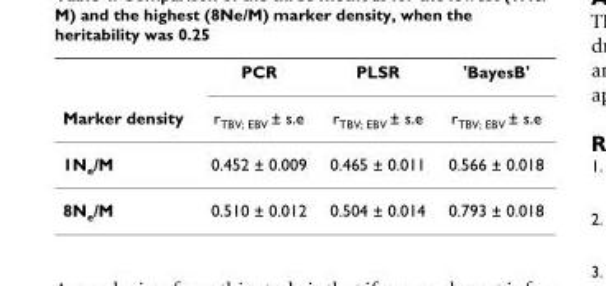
<table><thead><tr><td rowspan="2">Marker density</td><td rowspan="2">PCR r<sub>TBV; EBV</sub> ± s.e</td><td rowspan="2">PLSR r<sub>TBV; EBV</sub> ± s.e</td><td rowspan="2">&#x27;BayesB&#x27; r<sub>TBV; EBV</sub> ± s.e</td></tr><tr></tr></thead><tbody><tr><td>1N<sub>e</sub>/M</td><td>0.452 ± 0.009</td><td>0.465 ± 0.011</td><td>0.566 ± 0.018</td></tr><tr><td>8N<sub>e</sub>/M</td><td>0.510 ± 0.012</td><td>0.504 ± 0.014</td><td>0.793 ± 0.018</td></tr></tbody></table>